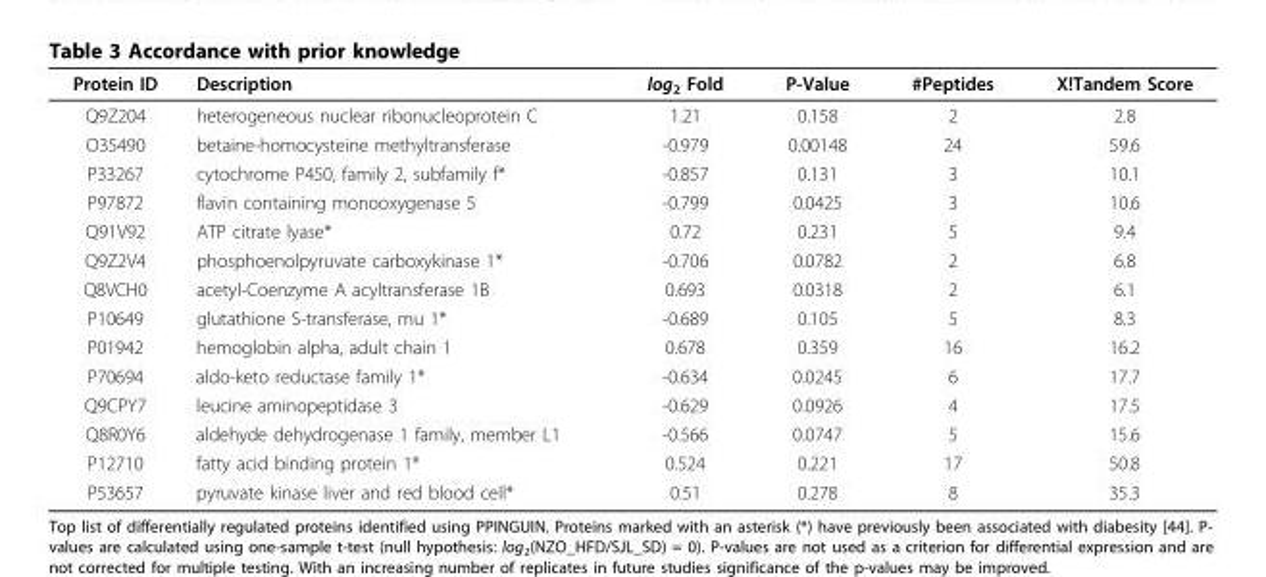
<table><thead><tr><td>Protein ID</td><td>Description</td><td>log<sub>2</sub> Fold</td><td>P-Value</td><td>#Peptides</td><td>X!Tandem Score</td></tr></thead><tbody><tr><td>Q9Z204</td><td>heterogeneous nuclear ribonucleoprotein C</td><td>1.21</td><td>0.158</td><td>2</td><td>2.8</td></tr><tr><td>O35490</td><td>betaine-homocysteine methyltransferase</td><td>-0.979</td><td>0.00148</td><td>24</td><td>59.6</td></tr><tr><td>P33267</td><td>cytochrome P450, family 2, subfamily f*</td><td>-0.857</td><td>0.131</td><td>3</td><td>10.1</td></tr><tr><td>P97872</td><td>flavin containing monooxygenase 5</td><td>-0.799</td><td>0.0425</td><td>3</td><td>10.6</td></tr><tr><td>Q91V92</td><td>ATP citrate lyase*</td><td>0.72</td><td>0.231</td><td>5</td><td>9.4</td></tr><tr><td>Q9Z2V4</td><td>phosphoenolpyruvate carboxykinase 1*</td><td>-0.706</td><td>0.0782</td><td>2</td><td>6.8</td></tr><tr><td>Q8VCH0</td><td>acetyl-Coenzyme A acyltransferase 1B</td><td>0.693</td><td>0.0318</td><td>2</td><td>6.1</td></tr><tr><td>P10649</td><td>glutathione S-transferase, mu 1*</td><td>-0.689</td><td>0.105</td><td>5</td><td>8.3</td></tr><tr><td>P01942</td><td>hemoglobin alpha, adult chain 1</td><td>0.678</td><td>0.359</td><td>16</td><td>16.2</td></tr><tr><td>P70694</td><td>aldo-keto reductase family 1*</td><td>-0.634</td><td>0.0245</td><td>6</td><td>17.7</td></tr><tr><td>Q9CPY7</td><td>leucine aminopeptidase 3</td><td>-0.629</td><td>0.0926</td><td>4</td><td>17.5</td></tr><tr><td>Q8R0Y6</td><td>aldehyde dehydrogenase 1 family, member L1</td><td>-0.566</td><td>0.0747</td><td>5</td><td>15.6</td></tr><tr><td>P12710</td><td>fatty acid binding protein 1*</td><td>0.524</td><td>0.221</td><td>17</td><td>50.8</td></tr><tr><td>P53657</td><td>pyruvate kinase liver and red blood cell*</td><td>0.51</td><td>0.278</td><td>8</td><td>35.3</td></tr></tbody></table>